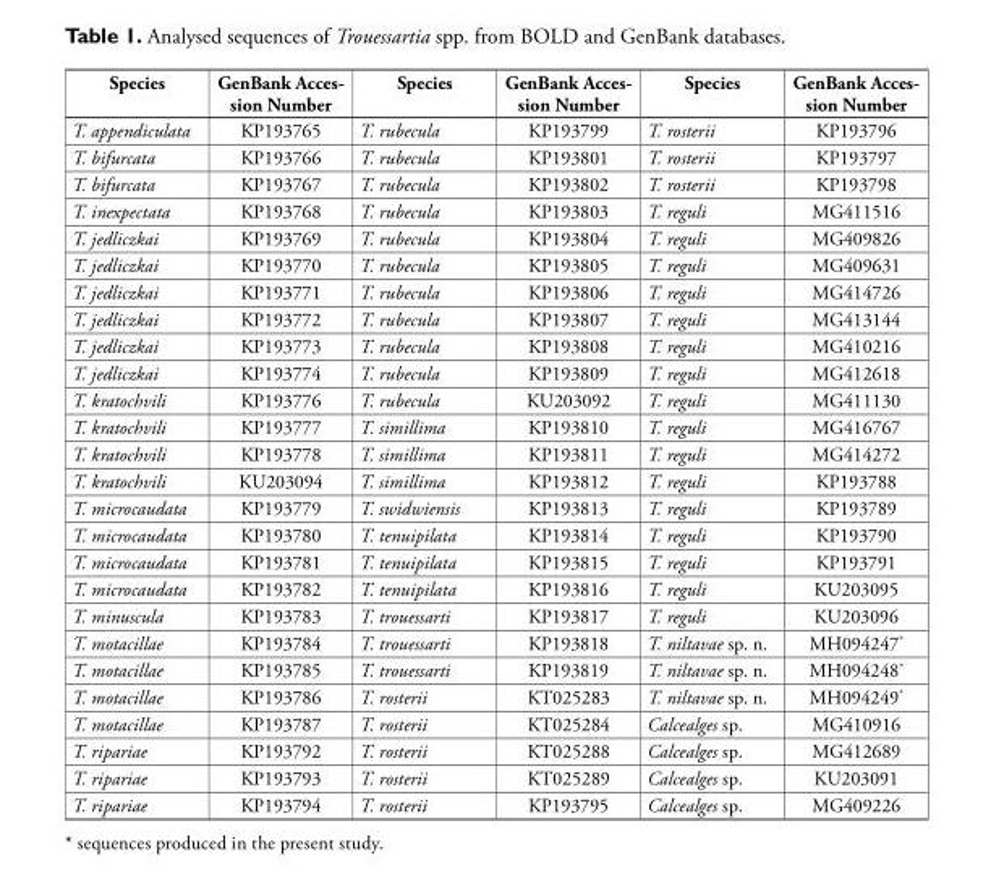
<table><tbody><tr><td>Species</td><td>GenBank Acces- sion Number</td><td>Species</td><td>GenBank Acces- sion Number</td><td>Species</td><td>GenBank Acces- sion Number</td></tr><tr><td>T. appendiculata</td><td>KP193765</td><td>T. rubecula</td><td>KP193799</td><td>T. rosterii</td><td>KP193796</td></tr><tr><td>T. bifurcata</td><td>KP193766</td><td>T. rubecula</td><td>KP193801</td><td>T. rosterii</td><td>KP193797</td></tr><tr><td>T. bifurcata</td><td>KP193767</td><td>T. rubecula</td><td>KP193802</td><td>T. rosterii</td><td>KP193798</td></tr><tr><td>T. inexpectata</td><td>KP193768</td><td>T. rubecula</td><td>KP193803</td><td>T. reguli</td><td>MG411516</td></tr><tr><td>T. jedliczkai</td><td>KP193769</td><td>T. rubecula</td><td>KP193804</td><td>T. reguli</td><td>MG409826</td></tr><tr><td>T. jedliczkai</td><td>KP193770</td><td>T. rubecula</td><td>KP193805</td><td>T. reguli</td><td>MG409631</td></tr><tr><td>T. jedliczkai</td><td>KP193771</td><td>T. rubecula</td><td>KP193806</td><td>T. reguli</td><td>MG414726</td></tr><tr><td>T. jedliczkai</td><td>KP193772</td><td>T. rubecula</td><td>KP193807</td><td>T. reguli</td><td>MG413144</td></tr><tr><td>T. jedliczkai</td><td>KP193773</td><td>T. rubecula</td><td>KP193808</td><td>T. reguli</td><td>MG410216</td></tr><tr><td>T. jedliczkai</td><td>KP193774</td><td>T. rubecula</td><td>KP193809</td><td>T. reguli</td><td>MG412618</td></tr><tr><td>T. kratochvili</td><td>KP193776</td><td>T. rubecula</td><td>KU203092</td><td>T. reguli</td><td>MG411130</td></tr><tr><td>T. kratochvili</td><td>KP193777</td><td>T. simillima</td><td>KP193810</td><td>T. reguli</td><td>MG416767</td></tr><tr><td>T. kratochvili</td><td>KP193778</td><td>T. simillima</td><td>KP193811</td><td>T. reguli</td><td>MG414272</td></tr><tr><td>T. kratochvili</td><td>KU203094</td><td>T. simillima</td><td>KP193812</td><td>T. reguli</td><td>KP193788</td></tr><tr><td>T. microcaudata</td><td>KP193779</td><td>T. swidwiensis</td><td>KP193813</td><td>T. reguli</td><td>KP193789</td></tr><tr><td>T. microcaudata</td><td>KP193780</td><td>T. tenuipilata</td><td>KP193814</td><td>T. reguli</td><td>KP193790</td></tr><tr><td>T. microcaudata</td><td>KP193781</td><td>T. tenuipilata</td><td>KP193815</td><td>T. reguli</td><td>KP193791</td></tr><tr><td>T. microcaudata</td><td>KP193782</td><td>T. tenuipilata</td><td>KP193816</td><td>T. reguli</td><td>KU203095</td></tr><tr><td>T. minuscula</td><td>KP193783</td><td>T. trouessarti</td><td>KP193817</td><td>T. reguli</td><td>KU203096</td></tr><tr><td>T. motacillae</td><td>KP193784</td><td>T. trouessarti</td><td>KP193818</td><td>T. niltavae sp. n.</td><td>MH094247*</td></tr><tr><td>T. motacillae</td><td>KP193785</td><td>T. trouessarti</td><td>KP193819</td><td>T. niltavae sp. n.</td><td>MH094248*</td></tr><tr><td>T. motacillae</td><td>KP193786</td><td>T. rosterii</td><td>KT025283</td><td>T. niltavae sp. n.</td><td>MH094249*</td></tr><tr><td>T. motacillae</td><td>KP193787</td><td>T. rosterii</td><td>KT025284</td><td>Calcealges sp.</td><td>MG410916</td></tr><tr><td>T. ripariae</td><td>KP193792</td><td>T. rosterii</td><td>KT025288</td><td>Calcealges sp.</td><td>MG412689</td></tr><tr><td>T. ripariae</td><td>KP193793</td><td>T. rosterii</td><td>KT025289</td><td>Calcealges sp.</td><td>KU203091</td></tr><tr><td>T. ripariae</td><td>KP193794</td><td>T. rosterii</td><td>KP193795</td><td>Calcealges sp.</td><td>MG409226</td></tr></tbody></table>